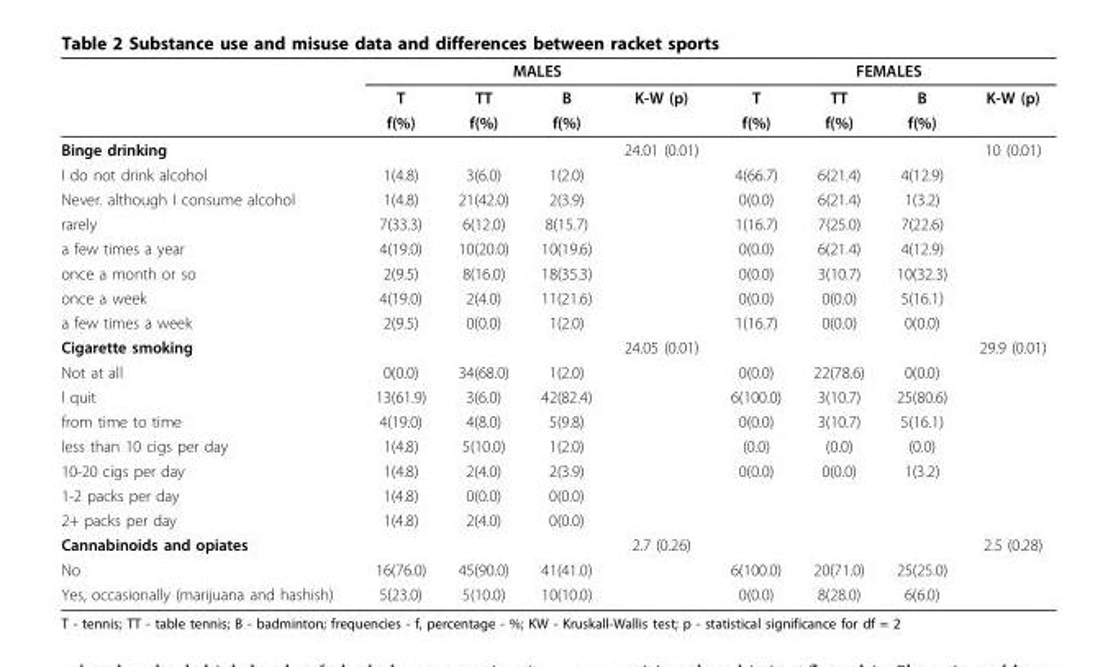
<table><thead><tr><td rowspan="3"></td><td colspan="4">MALES</td><td colspan="4">FEMALES</td></tr><tr><td rowspan="2">T f(%)</td><td rowspan="2">TT f(%)</td><td rowspan="2">B f(%)</td><td rowspan="2">K-W (p)</td><td rowspan="2">T f(%)</td><td rowspan="2">TT f(%)</td><td rowspan="2">B f(%)</td><td rowspan="2">K-W (p)</td></tr><tr></tr></thead><tbody><tr><td>Binge drinking</td><td></td><td></td><td></td><td>24.01 (0.01)</td><td></td><td></td><td></td><td>10 (0.01)</td></tr><tr><td>I do not drink alcohol</td><td>1(4.8)</td><td>3(6.0)</td><td>1(2.0)</td><td></td><td>4(66.7)</td><td>6(21.4)</td><td>4(12.9)</td><td></td></tr><tr><td>Never. although I consume alcohol</td><td>1(4.8)</td><td>21(42.0)</td><td>2(3.9)</td><td></td><td>0(0.0)</td><td>6(21.4)</td><td>1(3.2)</td><td></td></tr><tr><td>rarely</td><td>7(33.3)</td><td>6(12.0)</td><td>8(15.7)</td><td></td><td>1(16.7)</td><td>7(25.0)</td><td>7(22.6)</td><td></td></tr><tr><td>a few times a year</td><td>4(19.0)</td><td>10(20.0)</td><td>10(19.6)</td><td></td><td>0(0.0)</td><td>6(21.4)</td><td>4(12.9)</td><td></td></tr><tr><td>once a month or so</td><td>2(9.5)</td><td>8(16.0)</td><td>18(35.3)</td><td></td><td>0(0.0)</td><td>3(10.7)</td><td>10(32.3)</td><td></td></tr><tr><td>once a week</td><td>4(19.0)</td><td>2(4.0)</td><td>11(21.6)</td><td></td><td>0(0.0)</td><td>0(0.0)</td><td>5(16.1)</td><td></td></tr><tr><td>a few times a week</td><td>2(9.5)</td><td>0(0.0)</td><td>1(2.0)</td><td></td><td>1(16.7)</td><td>0(0.0)</td><td>0(0.0)</td><td></td></tr><tr><td>Cigarette smoking</td><td></td><td></td><td></td><td>24.05 (0.01)</td><td></td><td></td><td></td><td>29.9 (0.01)</td></tr><tr><td>Not at all</td><td>0(0.0)</td><td>34(68.0)</td><td>1(2.0)</td><td></td><td>0(0.0)</td><td>22(78.6)</td><td>0(0.0)</td><td></td></tr><tr><td>I quit</td><td>13(61.9)</td><td>3(6.0)</td><td>42(82.4)</td><td></td><td>6(100.0)</td><td>3(10.7)</td><td>25(80.6)</td><td></td></tr><tr><td>from time to time</td><td>4(19.0)</td><td>4(8.0)</td><td>5(9.8)</td><td></td><td>0(0.0)</td><td>3(10.7)</td><td>5(16.1)</td><td></td></tr><tr><td>less than 10 cigs per day</td><td>1(4.8)</td><td>5(10.0)</td><td>1(2.0)</td><td></td><td>(0.0)</td><td>(0.0)</td><td>(0.0)</td><td></td></tr><tr><td>10-20 cigs per day</td><td>1(4.8)</td><td>2(4.0)</td><td>2(3.9)</td><td></td><td>0(0.0)</td><td>0(0.0)</td><td>1(3.2)</td><td></td></tr><tr><td>1-2 packs per day</td><td>1(4.8)</td><td>0(0.0)</td><td>0(0.0)</td><td></td><td></td><td></td><td></td><td></td></tr><tr><td>2+ packs per day</td><td>1(4.8)</td><td>2(4.0)</td><td>0(0.0)</td><td></td><td></td><td></td><td></td><td></td></tr><tr><td>Cannabinoids and opiates</td><td></td><td></td><td></td><td>2.7 (0.26)</td><td></td><td></td><td></td><td>2.5 (0.28)</td></tr><tr><td>No</td><td>16(76.0)</td><td>45(90.0)</td><td>41(41.0)</td><td></td><td>6(100.0)</td><td>20(71.0)</td><td>25(25.0)</td><td></td></tr><tr><td>Yes, occasionally (marijuana and hashish)</td><td>5(23.0)</td><td>5(10.0)</td><td>10(10.0)</td><td></td><td>0(0.0)</td><td>8(28.0)</td><td>6(6.0)</td><td></td></tr></tbody></table>